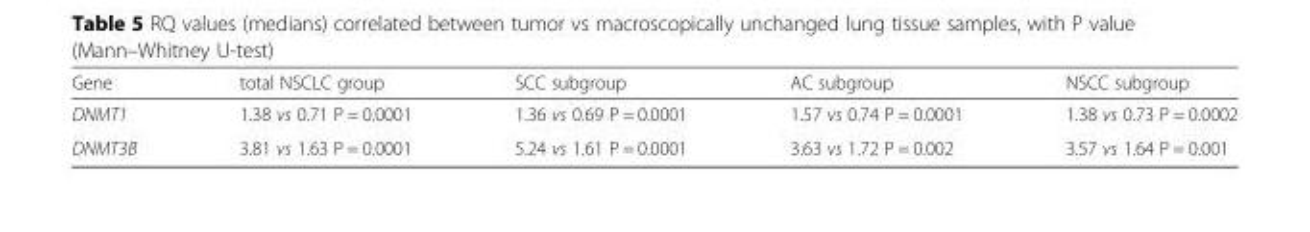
<table><thead><tr><td>Gene</td><td>total NSCLC group</td><td>SCC subgroup</td><td>AC subgroup</td><td>NSCC subgroup</td></tr></thead><tbody><tr><td>DNMT1</td><td>1.38 vs 0.71 P = 0.0001</td><td>1.36 vs 0.69 P = 0.0001</td><td>1.57 vs 0.74 P = 0.0001</td><td>1.38 vs 0.73 P = 0.0002</td></tr><tr><td>DNMT3B</td><td>3.81 vs 1.63 P = 0.0001</td><td>5.24 vs 1.61 P = 0.0001</td><td>3.63 vs 1.72 P = 0.002</td><td>3.57 vs 1.64 P = 0.001</td></tr></tbody></table>